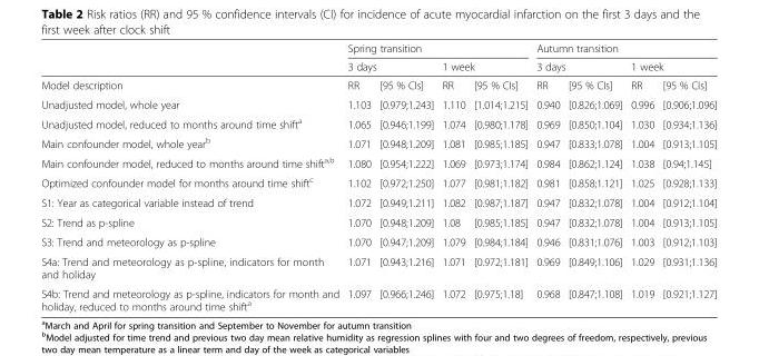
<table><thead><tr><td rowspan="3">Model description</td><td colspan="4">Spring transition</td><td colspan="4">Autumn transition</td></tr><tr><td colspan="2">3 days</td><td colspan="2">1 week</td><td colspan="2">3 days</td><td colspan="2">1 week</td></tr><tr><td>RR</td><td>[95 % CIs]</td><td>RR</td><td>[95 % CIs]</td><td>RR</td><td>[95 % CIs]</td><td>RR</td><td>[95 % CIs]</td></tr></thead><tbody><tr><td>Unadjusted model, whole year</td><td>1.103</td><td>[0.979;1.243]</td><td>1.110</td><td>[1.014;1.215]</td><td>0.940</td><td>[0.826;1.069]</td><td>0.996</td><td>[0.906;1.096]</td></tr><tr><td>Unadjusted model, reduced to months around time shift<sup>a</sup></td><td>1.065</td><td>[0.946;1.199]</td><td>1.074</td><td>[0.980;1.178]</td><td>0.969</td><td>[0.850;1.104]</td><td>1.030</td><td>[0.934;1.136]</td></tr><tr><td>Main confounder model, whole year<sup>b</sup></td><td>1.071</td><td>[0.948;1.209]</td><td>1.081</td><td>[0.985;1.185]</td><td>0.947</td><td>[0.833;1.078]</td><td>1.004</td><td>[0.913;1.105]</td></tr><tr><td>Main confounder model, reduced to months around time shift<sup>a,b</sup></td><td>1.080</td><td>[0.954;1.222]</td><td>1.069</td><td>[0.973;1.174]</td><td>0.984</td><td>[0.862;1.124]</td><td>1.038</td><td>[0.94;1.145]</td></tr><tr><td>Optimized confounder model for months around time shift<sup>c</sup></td><td>1.102</td><td>[0.972;1.250]</td><td>1.077</td><td>[0.981;1.182]</td><td>0.981</td><td>[0.858;1.121]</td><td>1.025</td><td>[0.928;1.133]</td></tr><tr><td>S1: Year as categorical variable instead of trend</td><td>1.072</td><td>[0.949;1.211]</td><td>1.082</td><td>[0.987;1.187]</td><td>0.947</td><td>[0.832;1.078]</td><td>1.004</td><td>[0.912;1.104]</td></tr><tr><td>S2: Trend as p-spline</td><td>1.070</td><td>[0.948;1.209]</td><td>1.08</td><td>[0.985;1.185]</td><td>0.947</td><td>[0.832;1.078]</td><td>1.004</td><td>[0.913;1.105]</td></tr><tr><td>S3: Trend and meteorology as p-spline</td><td>1.070</td><td>[0.947;1.209]</td><td>1.079</td><td>[0.984;1.184]</td><td>0.946</td><td>[0.831;1.076]</td><td>1.003</td><td>[0.912;1.103]</td></tr><tr><td>S4a: Trend and meteorology as p-spline, indicators for month and holiday</td><td>1.071</td><td>[0.943;1.216]</td><td>1.071</td><td>[0.972;1.181]</td><td>0.969</td><td>[0.849;1.106]</td><td>1.029</td><td>[0.931;1.136]</td></tr><tr><td>S4b: Trend and meteorology as p-spline, indicators for month and holiday, reduced to months around time shift<sup>a</sup></td><td>1.097</td><td>[0.966;1.246]</td><td>1.072</td><td>[0.975;1.18]</td><td>0.968</td><td>[0.847;1.108]</td><td>1.019</td><td>[0.921;1.127]</td></tr></tbody></table>